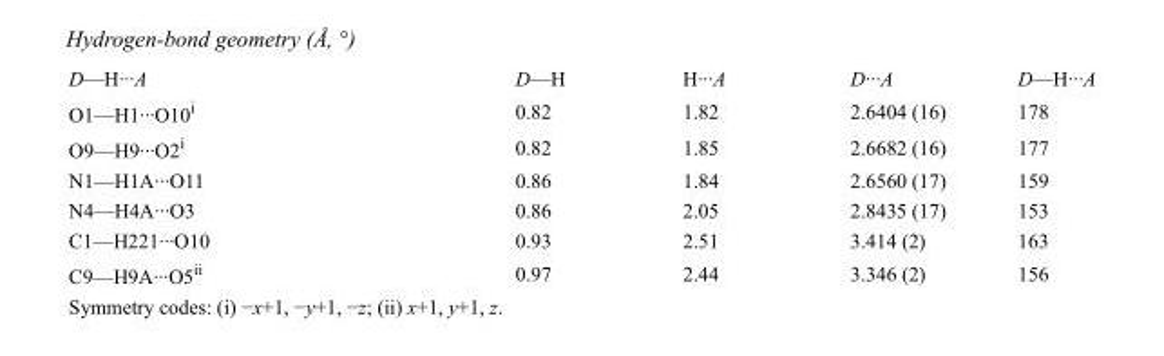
<table><tbody><tr><td>D—H···A</td><td>D—H</td><td>H···A</td><td>D···A</td><td>D—H···A</td></tr><tr><td>O1—H1···O10<sup>i</sup></td><td>0.82</td><td>1.82</td><td>2.6404 (16)</td><td>178</td></tr><tr><td>O9—H9···O2<sup>i</sup></td><td>0.82</td><td>1.85</td><td>2.6682 (16)</td><td>177</td></tr><tr><td>N1—H1A···O11</td><td>0.86</td><td>1.84</td><td>2.6560 (17)</td><td>159</td></tr><tr><td>N4—H4A···O3</td><td>0.86</td><td>2.05</td><td>2.8435 (17)</td><td>153</td></tr><tr><td>C1—H221···O10</td><td>0.93</td><td>2.51</td><td>3.414 (2)</td><td>163</td></tr><tr><td>C9—H9A···O5<sup>ii</sup></td><td>0.97</td><td>2.44</td><td>3.346 (2)</td><td>156</td></tr></tbody></table>